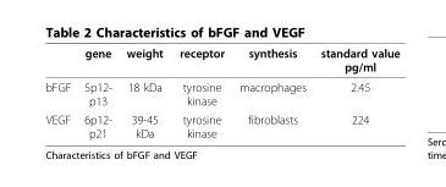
<table><thead><tr><td></td><td>gene</td><td>weight</td><td>receptor</td><td>synthesis</td><td>standard value pg/ml</td></tr></thead><tbody><tr><td>bFGF</td><td>5p12- p13</td><td>18 kDa</td><td>tyrosine kinase</td><td>macrophages</td><td>2.45</td></tr><tr><td>VEGF</td><td>6p12- p21</td><td>39-45 kDa</td><td>tyrosine kinase</td><td>fibroblasts</td><td>224</td></tr></tbody></table>